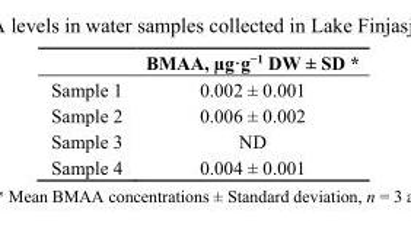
<table><thead><tr><td></td><td>BMAA, µg·g<sup>−1</sup> DW ± SD *</td></tr></thead><tbody><tr><td>Sample 1</td><td>0.002 ± 0.001</td></tr><tr><td>Sample 2</td><td>0.006 ± 0.002</td></tr><tr><td>Sample 3</td><td>ND</td></tr><tr><td>Sample 4</td><td>0.004 ± 0.001</td></tr></tbody></table>